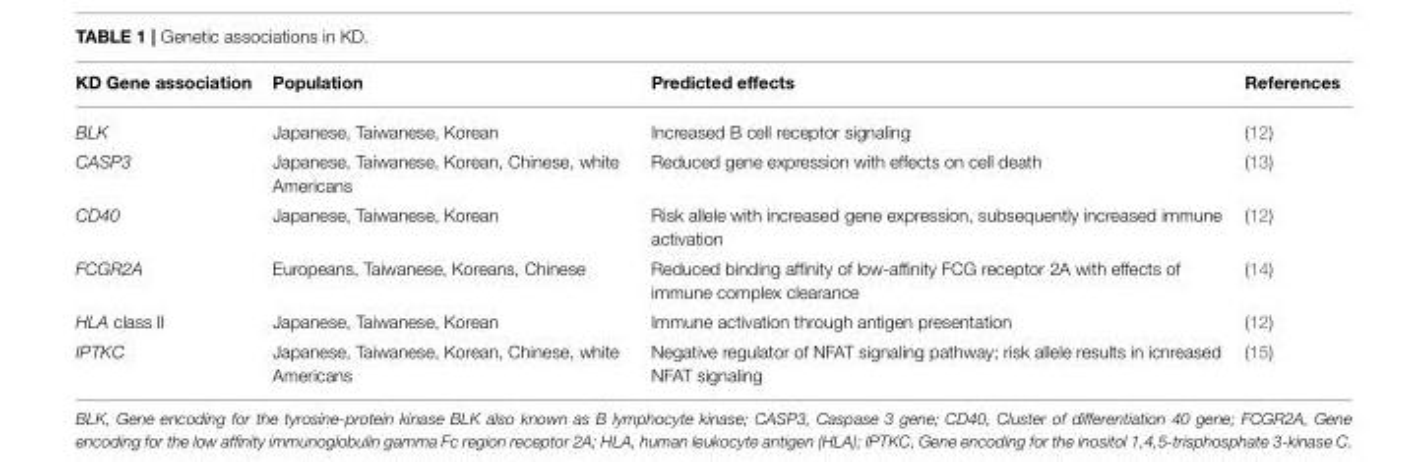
<table><thead><tr><td>KD Gene association</td><td>Population</td><td>Predicted effects</td><td>References</td></tr></thead><tbody><tr><td>BLK</td><td>Japanese, Taiwanese, Korean</td><td>Increased B cell receptor signaling</td><td>(12)</td></tr><tr><td>CASP3</td><td>Japanese, Taiwanese, Korean, Chinese, white Americans</td><td>Reduced gene expression with effects on cell death</td><td>(13)</td></tr><tr><td>CD40</td><td>Japanese, Taiwanese, Korean</td><td>Risk allele with increased gene expression, subsequently increased immune activation</td><td>(12)</td></tr><tr><td>FCGR2A</td><td>Europeans, Taiwanese, Koreans, Chinese</td><td>Reduced binding affinity of low-affinity FCG receptor 2A with effects of immune complex clearance</td><td>(14)</td></tr><tr><td>HLA class II</td><td>Japanese, Taiwanese, Korean</td><td>Immune activation through antigen presentation</td><td>(12)</td></tr><tr><td>IPTKC</td><td>Japanese, Taiwanese, Korean, Chinese, white Americans</td><td>Negative regulator of NFAT signaling pathway; risk allele results in icnreased NFAT signaling</td><td>(15)</td></tr></tbody></table>